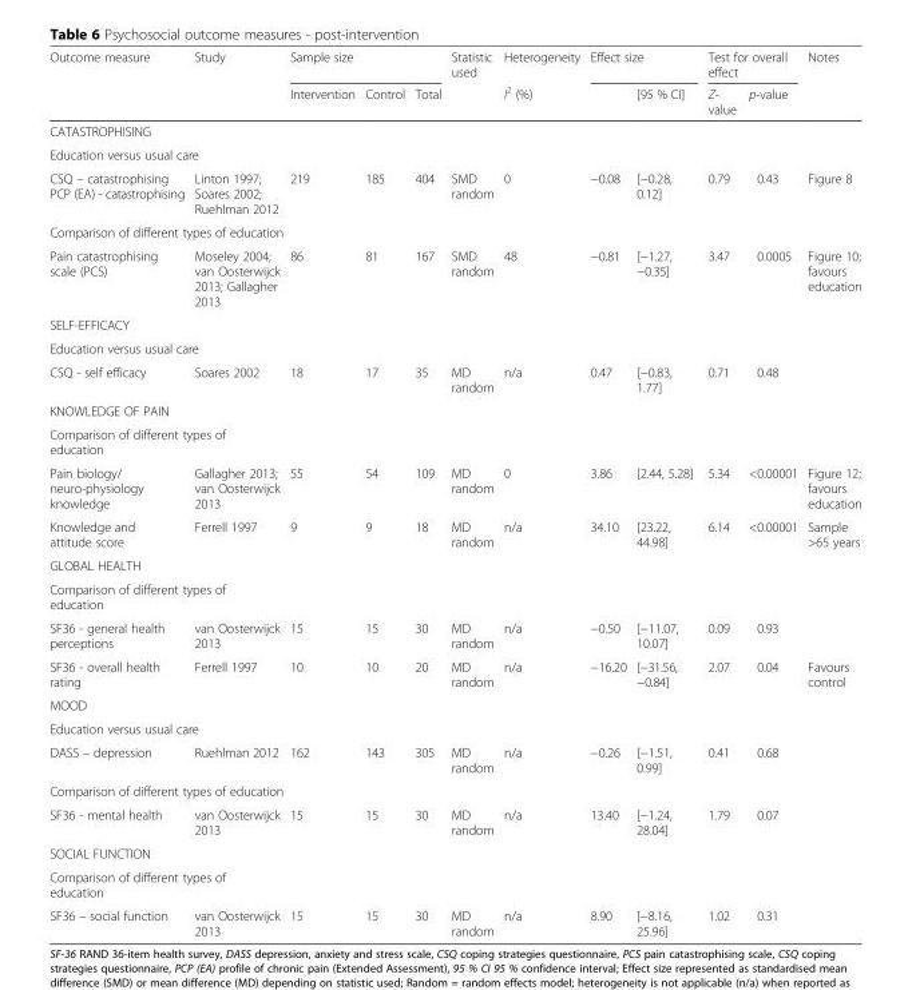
<table><thead><tr><td rowspan="2">Outcome measure</td><td rowspan="2">Study</td><td colspan="3">Sample size</td><td rowspan="2">Statistic used</td><td rowspan="2">Heterogeneity I<sup>2</sup> (%)</td><td colspan="2">Effect size</td><td colspan="2">Test for overall effect</td><td rowspan="2">Notes</td></tr><tr><td>Intervention</td><td>Control</td><td>Total</td><td></td><td>[95 % CI]</td><td>Z- value</td><td>p-value</td></tr></thead><tbody><tr><td colspan="12">CATASTROPHISING</td></tr><tr><td colspan="12">Education versus usual care</td></tr><tr><td>CSQ – catastrophising PCP (EA) - catastrophising</td><td>Linton 1997; Soares 2002; Ruehlman 2012</td><td>219</td><td>185</td><td>404</td><td>SMD random</td><td>0</td><td>−0.08</td><td>[−0.28, 0.12]</td><td>0.79</td><td>0.43</td><td>Figure 8</td></tr><tr><td colspan="12">Comparison of different types of education</td></tr><tr><td>Pain catastrophising scale (PCS)</td><td>Moseley 2004; van Oosterwijck 2013; Gallagher 2013</td><td>86</td><td>81</td><td>167</td><td>SMD random</td><td>48</td><td>−0.81</td><td>[−1.27, −0.35]</td><td>3.47</td><td>0.0005</td><td>Figure 10; favours education</td></tr><tr><td colspan="12">SELF-EFFICACY</td></tr><tr><td colspan="12">Education versus usual care</td></tr><tr><td>CSQ - self efficacy</td><td>Soares 2002</td><td>18</td><td>17</td><td>35</td><td>MD random</td><td>n/a</td><td>0.47</td><td>[−0.83, 1.77]</td><td>0.71</td><td>0.48</td><td></td></tr><tr><td colspan="12">KNOWLEDGE OF PAIN</td></tr><tr><td colspan="12">Comparison of different types of education</td></tr><tr><td>Pain biology/ neuro-physiology knowledge</td><td>Gallagher 2013; van Oosterwijck 2013</td><td>55</td><td>54</td><td>109</td><td>MD random</td><td>0</td><td>3.86</td><td>[2.44, 5.28]</td><td>5.34</td><td>&lt;0.00001</td><td>Figure 12; favours education</td></tr><tr><td>Knowledge and attitude score</td><td>Ferrell 1997</td><td>9</td><td>9</td><td>18</td><td>MD random</td><td>n/a</td><td>34.10</td><td>[23.22, 44.98]</td><td>6.14</td><td>&lt;0.00001</td><td>Sample &gt;65 years</td></tr><tr><td colspan="12">GLOBAL HEALTH</td></tr><tr><td colspan="12">Comparison of different types of education</td></tr><tr><td>SF36 - general health perceptions</td><td>van Oosterwijck 2013</td><td>15</td><td>15</td><td>30</td><td>MD random</td><td>n/a</td><td>−0.50</td><td>[−11.07, 10.07]</td><td>0.09</td><td>0.93</td><td></td></tr><tr><td>SF36 - overall health rating</td><td>Ferrell 1997</td><td>10</td><td>10</td><td>20</td><td>MD random</td><td>n/a</td><td>−16.20</td><td>[−31.56, −0.84]</td><td>2.07</td><td>0.04</td><td>Favours control</td></tr><tr><td colspan="12">MOOD</td></tr><tr><td colspan="12">Education versus usual care</td></tr><tr><td>DASS – depression</td><td>Ruehlman 2012</td><td>162</td><td>143</td><td>305</td><td>MD random</td><td>n/a</td><td>−0.26</td><td>[−1.51, 0.99]</td><td>0.41</td><td>0.68</td><td></td></tr><tr><td colspan="12">Comparison of different types of education</td></tr><tr><td>SF36 - mental health</td><td>van Oosterwijck 2013</td><td>15</td><td>15</td><td>30</td><td>MD random</td><td>n/a</td><td>13.40</td><td>[−1.24, 28.04]</td><td>1.79</td><td>0.07</td><td></td></tr><tr><td colspan="12">SOCIAL FUNCTION</td></tr><tr><td colspan="12">Comparison of different types of education</td></tr><tr><td>SF36 – social function</td><td>van Oosterwijck 2013</td><td>15</td><td>15</td><td>30</td><td>MD random</td><td>n/a</td><td>8.90</td><td>[−8.16, 25.96]</td><td>1.02</td><td>0.31</td><td></td></tr></tbody></table>